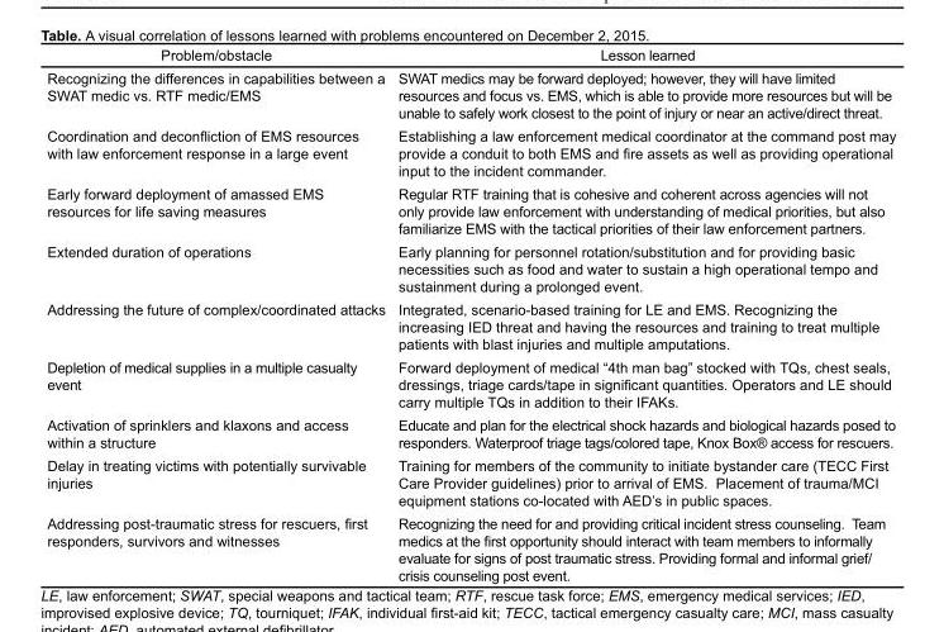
<table><thead><tr><td>Problem/obstacle</td><td>Lesson learned</td></tr></thead><tbody><tr><td>Recognizing the differences in capabilities between a SWAT medic vs. RTF medic/EMS</td><td>SWAT medics may be forward deployed; however, they will have limited resources and focus vs. EMS, which is able to provide more resources but will be unable to safely work closest to the point of injury or near an active/direct threat.</td></tr><tr><td>Coordination and deconfliction of EMS resources with law enforcement response in a large event</td><td>Establishing a law enforcement medical coordinator at the command post may provide a conduit to both EMS and fire assets as well as providing operational input to the incident commander.</td></tr><tr><td>Early forward deployment of amassed EMS resources for life saving measures</td><td>Regular RTF training that is cohesive and coherent across agencies will not only provide law enforcement with understanding of medical priorities, but also familiarize EMS with the tactical priorities of their law enforcement partners.</td></tr><tr><td>Extended duration of operations</td><td>Early planning for personnel rotation/substitution and for providing basic necessities such as food and water to sustain a high operational tempo and sustainment during a prolonged event.</td></tr><tr><td>Addressing the future of complex/coordinated attacks</td><td>Integrated, scenario-based training for LE and EMS. Recognizing the increasing IED threat and having the resources and training to treat multiple patients with blast injuries and multiple amputations.</td></tr><tr><td>Depletion of medical supplies in a multiple casualty event</td><td>Forward deployment of medical “4th man bag” stocked with TQs, chest seals, dressings, triage cards/tape in significant quantities. Operators and LE should carry multiple TQs in addition to their IFAKs.</td></tr><tr><td>Activation of sprinklers and klaxons and access within a structure</td><td>Educate and plan for the electrical shock hazards and biological hazards posed to responders. Waterproof triage tags/colored tape, Knox Box® access for rescuers.</td></tr><tr><td>Delay in treating victims with potentially survivable injuries</td><td>Training for members of the community to initiate bystander care (TECC First Care Provider guidelines) prior to arrival of EMS. Placement of trauma/MCI equipment stations co-located with AED’s in public spaces.</td></tr><tr><td>Addressing post-traumatic stress for rescuers, first responders, survivors and witnesses</td><td>Recognizing the need for and providing critical incident stress counseling. Team medics at the first opportunity should interact with team members to informally evaluate for signs of post traumatic stress. Providing formal and informal grief/ crisis counseling post event.</td></tr></tbody></table>